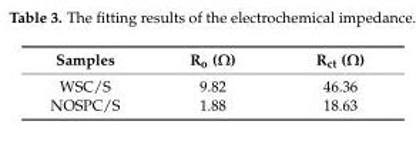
<table><thead><tr><td>Samples</td><td>R<sub>o</sub> (Ω)</td><td>R<sub>ct</sub> (Ω)</td></tr></thead><tbody><tr><td>WSC/S</td><td>9.82</td><td>46.36</td></tr><tr><td>NOSPC/S</td><td>1.88</td><td>18.63</td></tr></tbody></table>